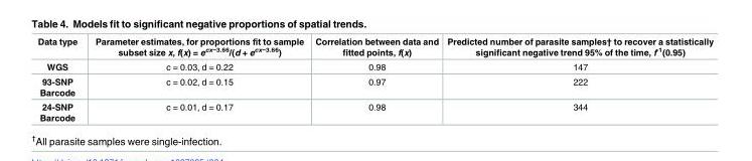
<table><thead><tr><td>Data type</td><td>Parameter estimates, for proportions fit to sample subset size x, f(x) = e<sup>cx−3.66</sup>/(d + e<sup>cx−3.66</sup>)</td><td>Correlation between data and fitted points, f(x)</td><td>Predicted number of parasite samples† to recover a statistically significant negative trend 95% of the time, f<sup>-1</sup>(0.95)</td></tr></thead><tbody><tr><td>WGS</td><td>c = 0.03, d = 0.22</td><td>0.98</td><td>147</td></tr><tr><td>93-SNP Barcode</td><td>c = 0.02, d = 0.15</td><td>0.97</td><td>222</td></tr><tr><td>24-SNP Barcode</td><td>c = 0.01, d = 0.17</td><td>0.98</td><td>344</td></tr></tbody></table>